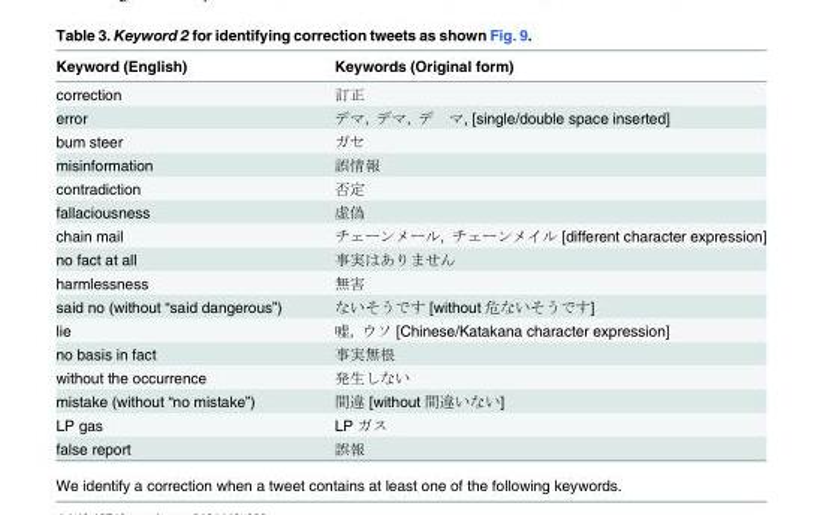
<table><thead><tr><td>Keyword (English)</td><td>Keywords (Original form)</td></tr></thead><tbody><tr><td>correction</td><td>訂正</td></tr><tr><td>error</td><td>デマ, デマ, デ マ, [single/double space inserted]</td></tr><tr><td>bum steer</td><td>ガセ</td></tr><tr><td>misinformation</td><td>誤情報</td></tr><tr><td>contradiction</td><td>否定</td></tr><tr><td>fallaciousness</td><td>虚偽</td></tr><tr><td>chain mail</td><td>チェーンメール, チェーンメイル [different character expression]</td></tr><tr><td>no fact at all</td><td>事実はありません</td></tr><tr><td>harmlessness</td><td>無害</td></tr><tr><td>said no (without “said dangerous”)</td><td>ないそうです [without 危ないそうです]</td></tr><tr><td>lie</td><td>嘘, ウソ [Chinese/Katakana character expression]</td></tr><tr><td>no basis in fact</td><td>事実無根</td></tr><tr><td>without the occurrence</td><td>発生しない</td></tr><tr><td>mistake (without “no mistake”)</td><td>間違 [without 間違いない]</td></tr><tr><td>LP gas</td><td>LP ガス</td></tr><tr><td>false report</td><td>誤報</td></tr></tbody></table>